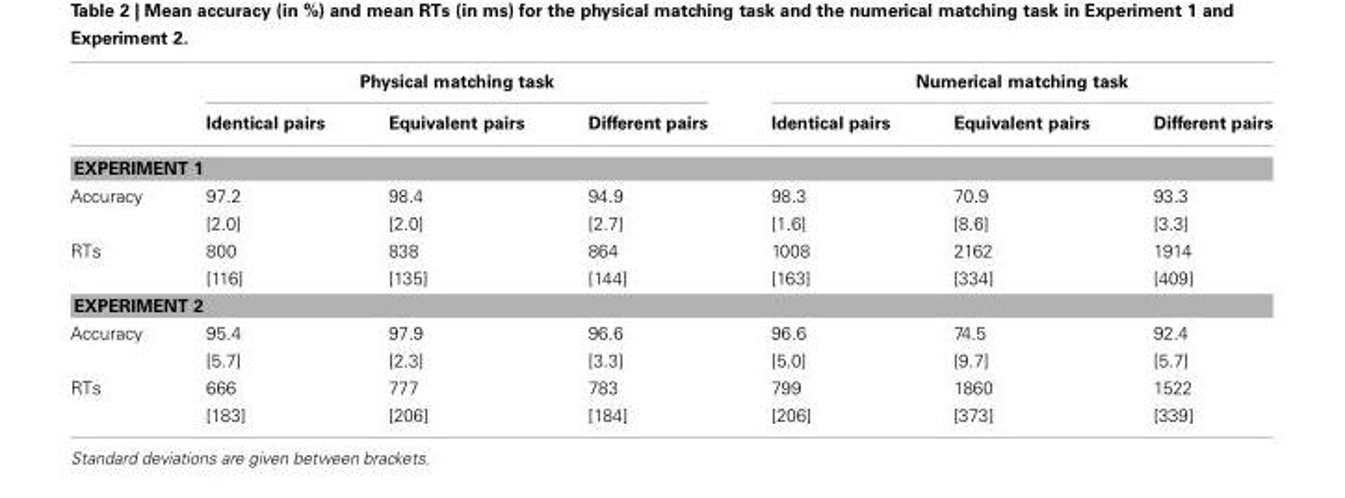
<table><thead><tr><td rowspan="2"></td><td colspan="3">Physical matching task</td><td colspan="3">Numerical matching task</td></tr><tr><td>Identical pairs</td><td>Equivalent pairs</td><td>Different pairs</td><td>Identical pairs</td><td>Equivalent pairs</td><td>Different pairs</td></tr></thead><tbody><tr><td colspan="7">EXPERIMENT 1</td></tr><tr><td rowspan="2">Accuracy</td><td>97.2</td><td>98.4</td><td>94.9</td><td>98.3</td><td>70.9</td><td>93.3</td></tr><tr><td>[2.0]</td><td>[2.0]</td><td>[2.7]</td><td>[1.6]</td><td>[8.6]</td><td>[3.3]</td></tr><tr><td rowspan="2">RTs</td><td>800</td><td>838</td><td>864</td><td>1008</td><td>2162</td><td>1914</td></tr><tr><td>[116]</td><td>[135]</td><td>[144]</td><td>[163]</td><td>[334]</td><td>[409]</td></tr><tr><td colspan="7">EXPERIMENT 2</td></tr><tr><td rowspan="2">Accuracy</td><td>95.4</td><td>97.9</td><td>96.6</td><td>96.6</td><td>74.5</td><td>92.4</td></tr><tr><td>[5.7]</td><td>[2.3]</td><td>[3.3]</td><td>[5.0]</td><td>[9.7]</td><td>[5.7]</td></tr><tr><td rowspan="2">RTs</td><td>666</td><td>777</td><td>783</td><td>799</td><td>1860</td><td>1522</td></tr><tr><td>[183]</td><td>[206]</td><td>[184]</td><td>[206]</td><td>[373]</td><td>[339]</td></tr></tbody></table>